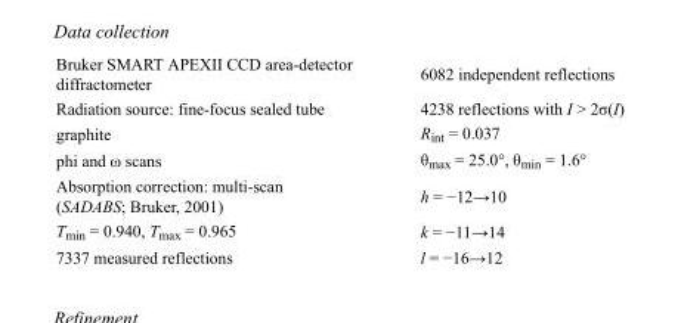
<table><tbody><tr><td>Bruker SMART APEXII CCD area-detector diffractometer</td><td>6082 independent reflections</td></tr><tr><td>Radiation source: fine-focus sealed tube</td><td>4238 reflections with I &gt; 2σ(I)</td></tr><tr><td>graphite</td><td>R<sub>int</sub> = 0.037</td></tr><tr><td>phi and ω scans</td><td>θ<sub>max</sub> = 25.0°, θ<sub>min</sub> = 1.6°</td></tr><tr><td>Absorption correction: multi-scan (SADABS; Bruker, 2001)</td><td>h = −12→10</td></tr><tr><td>T<sub>min</sub> = 0.940, T<sub>max</sub> = 0.965</td><td>k = −11→14</td></tr><tr><td>7337 measured reflections</td><td>l = −16→12</td></tr></tbody></table>